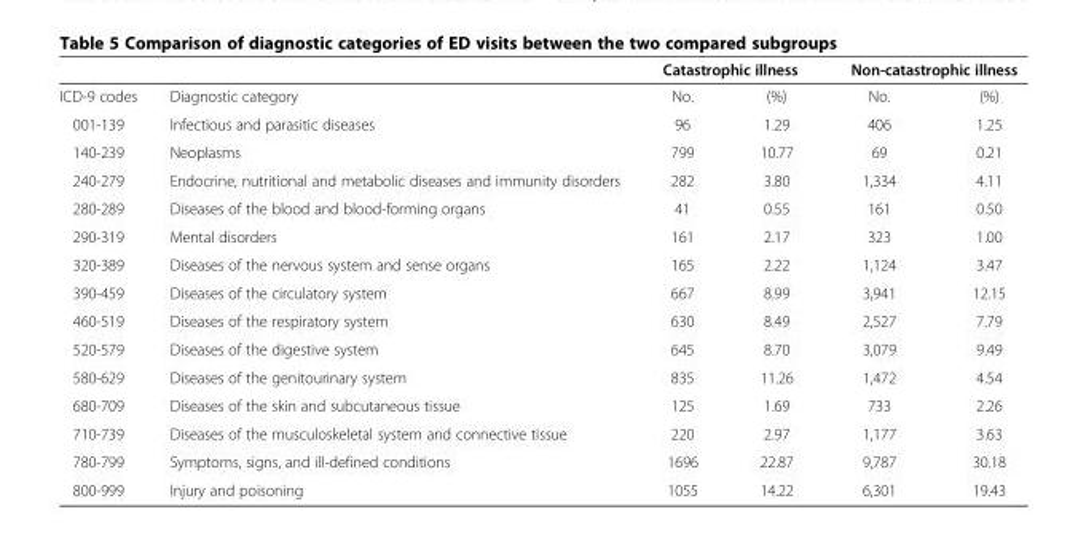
<table><thead><tr><td rowspan="2">ICD-9 codes</td><td rowspan="2">Diagnostic category</td><td colspan="2">Catastrophic illness</td><td colspan="2">Non-catastrophic illness</td></tr><tr><td>No.</td><td>(%)</td><td>No.</td><td>(%)</td></tr></thead><tbody><tr><td>001-139</td><td>Infectious and parasitic diseases</td><td>96</td><td>1.29</td><td>406</td><td>1.25</td></tr><tr><td>140-239</td><td>Neoplasms</td><td>799</td><td>10.77</td><td>69</td><td>0.21</td></tr><tr><td>240-279</td><td>Endocrine, nutritional and metabolic diseases and immunity disorders</td><td>282</td><td>3.80</td><td>1,334</td><td>4.11</td></tr><tr><td>280-289</td><td>Diseases of the blood and blood-forming organs</td><td>41</td><td>0.55</td><td>161</td><td>0.50</td></tr><tr><td>290-319</td><td>Mental disorders</td><td>161</td><td>2.17</td><td>323</td><td>1.00</td></tr><tr><td>320-389</td><td>Diseases of the nervous system and sense organs</td><td>165</td><td>2.22</td><td>1,124</td><td>3.47</td></tr><tr><td>390-459</td><td>Diseases of the circulatory system</td><td>667</td><td>8.99</td><td>3,941</td><td>12.15</td></tr><tr><td>460-519</td><td>Diseases of the respiratory system</td><td>630</td><td>8.49</td><td>2,527</td><td>7.79</td></tr><tr><td>520-579</td><td>Diseases of the digestive system</td><td>645</td><td>8.70</td><td>3,079</td><td>9.49</td></tr><tr><td>580-629</td><td>Diseases of the genitourinary system</td><td>835</td><td>11.26</td><td>1,472</td><td>4.54</td></tr><tr><td>680-709</td><td>Diseases of the skin and subcutaneous tissue</td><td>125</td><td>1.69</td><td>733</td><td>2.26</td></tr><tr><td>710-739</td><td>Diseases of the musculoskeletal system and connective tissue</td><td>220</td><td>2.97</td><td>1,177</td><td>3.63</td></tr><tr><td>780-799</td><td>Symptoms, signs, and ill-defined conditions</td><td>1696</td><td>22.87</td><td>9,787</td><td>30.18</td></tr><tr><td>800-999</td><td>Injury and poisoning</td><td>1055</td><td>14.22</td><td>6,301</td><td>19.43</td></tr></tbody></table>